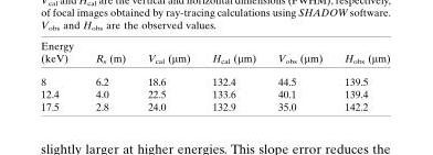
<table><thead><tr><td>Energy (keV)</td><td>R<sub>s</sub> (m)</td><td>V<sub>cal</sub> (µm)</td><td>H<sub>cal</sub> (µm)</td><td>V<sub>obs</sub> (µm)</td><td>H<sub>obs</sub> (µm)</td></tr></thead><tbody><tr><td>8</td><td>6.2</td><td>18.6</td><td>132.4</td><td>44.5</td><td>139.5</td></tr><tr><td>12.4</td><td>4.0</td><td>22.5</td><td>133.6</td><td>40.1</td><td>139.4</td></tr><tr><td>17.5</td><td>2.8</td><td>24.0</td><td>132.9</td><td>35.0</td><td>142.2</td></tr></tbody></table>